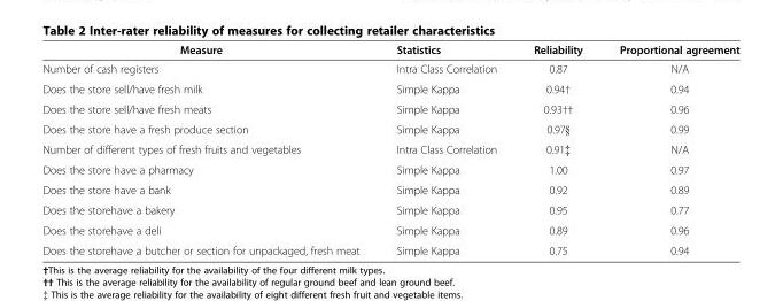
<table><thead><tr><td>Measure</td><td>Statistics</td><td>Reliability</td><td>Proportional agreement</td></tr></thead><tbody><tr><td>Number of cash registers</td><td>Intra Class Correlation</td><td>0.87</td><td>N/A</td></tr><tr><td>Does the store sell/have fresh milk</td><td>Simple Kappa</td><td>0.94†</td><td>0.94</td></tr><tr><td>Does the store sell/have fresh meats</td><td>Simple Kappa</td><td>0.93††</td><td>0.96</td></tr><tr><td>Does the store have a fresh produce section</td><td>Simple Kappa</td><td>0.97§</td><td>0.99</td></tr><tr><td>Number of different types of fresh fruits and vegetables</td><td>Intra Class Correlation</td><td>0.91‡</td><td>N/A</td></tr><tr><td>Does the store have a pharmacy</td><td>Simple Kappa</td><td>1.00</td><td>0.97</td></tr><tr><td>Does the store have a bank</td><td>Simple Kappa</td><td>0.92</td><td>0.89</td></tr><tr><td>Does the storehave a bakery</td><td>Simple Kappa</td><td>0.95</td><td>0.77</td></tr><tr><td>Does the storehave a deli</td><td>Simple Kappa</td><td>0.89</td><td>0.96</td></tr><tr><td>Does the storehave a butcher or section for unpackaged, fresh meat</td><td>Simple Kappa</td><td>0.75</td><td>0.94</td></tr></tbody></table>